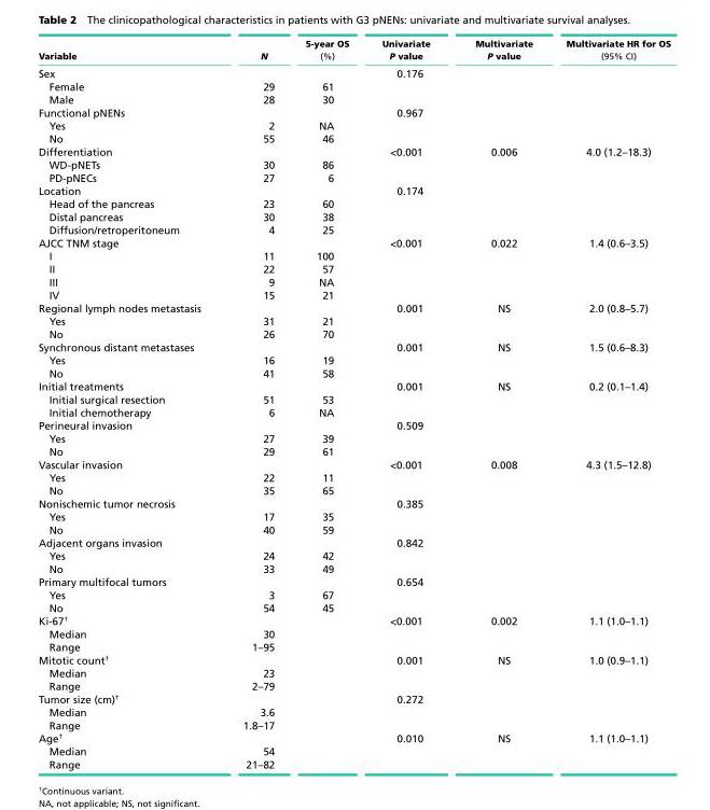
<table><thead><tr><td>Variable</td><td>N</td><td>5-year OS (%)</td><td>Univariate P value</td><td>Multivariate P value</td><td>Multivariate HR for OS (95% CI)</td></tr></thead><tbody><tr><td>Sex</td><td></td><td></td><td>0.176</td><td></td><td></td></tr><tr><td>Female</td><td>29</td><td>61</td><td></td><td></td><td></td></tr><tr><td>Male</td><td>28</td><td>30</td><td></td><td></td><td></td></tr><tr><td>Functional pNENs</td><td></td><td></td><td>0.967</td><td></td><td></td></tr><tr><td>Yes</td><td>2</td><td>NA</td><td></td><td></td><td></td></tr><tr><td>No</td><td>55</td><td>46</td><td></td><td></td><td></td></tr><tr><td>Differentiation</td><td></td><td></td><td>&lt;0.001</td><td>0.006</td><td>4.0 (1.2–18.3)</td></tr><tr><td>WD-pNETs</td><td>30</td><td>86</td><td></td><td></td><td></td></tr><tr><td>PD-pNECs</td><td>27</td><td>6</td><td></td><td></td><td></td></tr><tr><td>Location</td><td></td><td></td><td>0.174</td><td></td><td></td></tr><tr><td>Head of the pancreas</td><td>23</td><td>60</td><td></td><td></td><td></td></tr><tr><td>Distal pancreas</td><td>30</td><td>38</td><td></td><td></td><td></td></tr><tr><td>Diffusion/retroperitoneum</td><td>4</td><td>25</td><td></td><td></td><td></td></tr><tr><td>AJCC TNM stage</td><td></td><td></td><td>&lt;0.001</td><td>0.022</td><td>1.4 (0.6–3.5)</td></tr><tr><td>I</td><td>11</td><td>100</td><td></td><td></td><td></td></tr><tr><td>II</td><td>22</td><td>57</td><td></td><td></td><td></td></tr><tr><td>III</td><td>9</td><td>NA</td><td></td><td></td><td></td></tr><tr><td>IV</td><td>15</td><td>21</td><td></td><td></td><td></td></tr><tr><td>Regional lymph nodes metastasis</td><td></td><td></td><td>0.001</td><td>NS</td><td>2.0 (0.8–5.7)</td></tr><tr><td>Yes</td><td>31</td><td>21</td><td></td><td></td><td></td></tr><tr><td>No</td><td>26</td><td>70</td><td></td><td></td><td></td></tr><tr><td>Synchronous distant metastases</td><td></td><td></td><td>0.001</td><td>NS</td><td>1.5 (0.6–8.3)</td></tr><tr><td>Yes</td><td>16</td><td>19</td><td></td><td></td><td></td></tr><tr><td>No</td><td>41</td><td>58</td><td></td><td></td><td></td></tr><tr><td>Initial treatments</td><td></td><td></td><td>0.001</td><td>NS</td><td>0.2 (0.1–1.4)</td></tr><tr><td>Initial surgical resection</td><td>51</td><td>53</td><td></td><td></td><td></td></tr><tr><td>Initial chemotherapy</td><td>6</td><td>NA</td><td></td><td></td><td></td></tr><tr><td>Perineural invasion</td><td></td><td></td><td>0.509</td><td></td><td></td></tr><tr><td>Yes</td><td>27</td><td>39</td><td></td><td></td><td></td></tr><tr><td>No</td><td>29</td><td>61</td><td></td><td></td><td></td></tr><tr><td>Vascular invasion</td><td></td><td></td><td>&lt;0.001</td><td>0.008</td><td>4.3 (1.5–12.8)</td></tr><tr><td>Yes</td><td>22</td><td>11</td><td></td><td></td><td></td></tr><tr><td>No</td><td>35</td><td>65</td><td></td><td></td><td></td></tr><tr><td>Nonischemic tumor necrosis</td><td></td><td></td><td>0.385</td><td></td><td></td></tr><tr><td>Yes</td><td>17</td><td>35</td><td></td><td></td><td></td></tr><tr><td>No</td><td>40</td><td>59</td><td></td><td></td><td></td></tr><tr><td>Adjacent organs invasion</td><td></td><td></td><td>0.842</td><td></td><td></td></tr><tr><td>Yes</td><td>24</td><td>42</td><td></td><td></td><td></td></tr><tr><td>No</td><td>33</td><td>49</td><td></td><td></td><td></td></tr><tr><td>Primary multifocal tumors</td><td></td><td></td><td>0.654</td><td></td><td></td></tr><tr><td>Yes</td><td>3</td><td>67</td><td></td><td></td><td></td></tr><tr><td>No</td><td>54</td><td>45</td><td></td><td></td><td></td></tr><tr><td>Ki-67<sup>†</sup></td><td></td><td></td><td>&lt;0.001</td><td>0.002</td><td>1.1 (1.0–1.1)</td></tr><tr><td>Median</td><td>30</td><td></td><td></td><td></td><td></td></tr><tr><td>Range</td><td>1–95</td><td></td><td></td><td></td><td></td></tr><tr><td>Mitotic count<sup>†</sup></td><td></td><td></td><td>0.001</td><td>NS</td><td>1.0 (0.9–1.1)</td></tr><tr><td>Median</td><td>23</td><td></td><td></td><td></td><td></td></tr><tr><td>Range</td><td>2–79</td><td></td><td></td><td></td><td></td></tr><tr><td>Tumor size (cm)<sup>†</sup></td><td></td><td></td><td>0.272</td><td></td><td></td></tr><tr><td>Median</td><td>3.6</td><td></td><td></td><td></td><td></td></tr><tr><td>Range</td><td>1.8–17</td><td></td><td></td><td></td><td></td></tr><tr><td>Age<sup>†</sup></td><td></td><td></td><td>0.010</td><td>NS</td><td>1.1 (1.0–1.1)</td></tr><tr><td>Median</td><td>54</td><td></td><td></td><td></td><td></td></tr><tr><td>Range</td><td>21–82</td><td></td><td></td><td></td><td></td></tr></tbody></table>